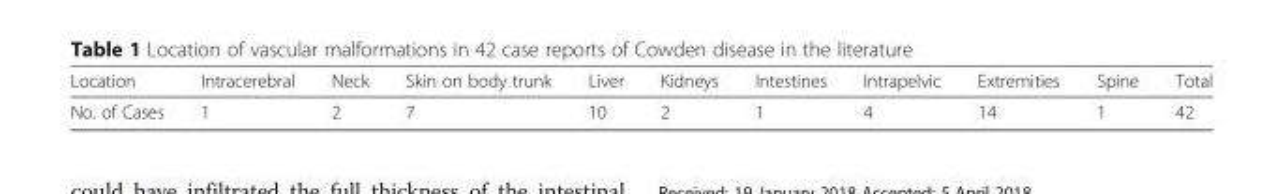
<table><thead><tr><td>Location</td><td>Intracerebral</td><td>Neck</td><td>Skin on body trunk</td><td>Liver</td><td>Kidneys</td><td>Intestines</td><td>Intrapelvic</td><td>Extremities</td><td>Spine</td><td>Total</td></tr></thead><tbody><tr><td>No. of Cases</td><td>1</td><td>2</td><td>7</td><td>10</td><td>2</td><td>1</td><td>4</td><td>14</td><td>1</td><td>42</td></tr></tbody></table>